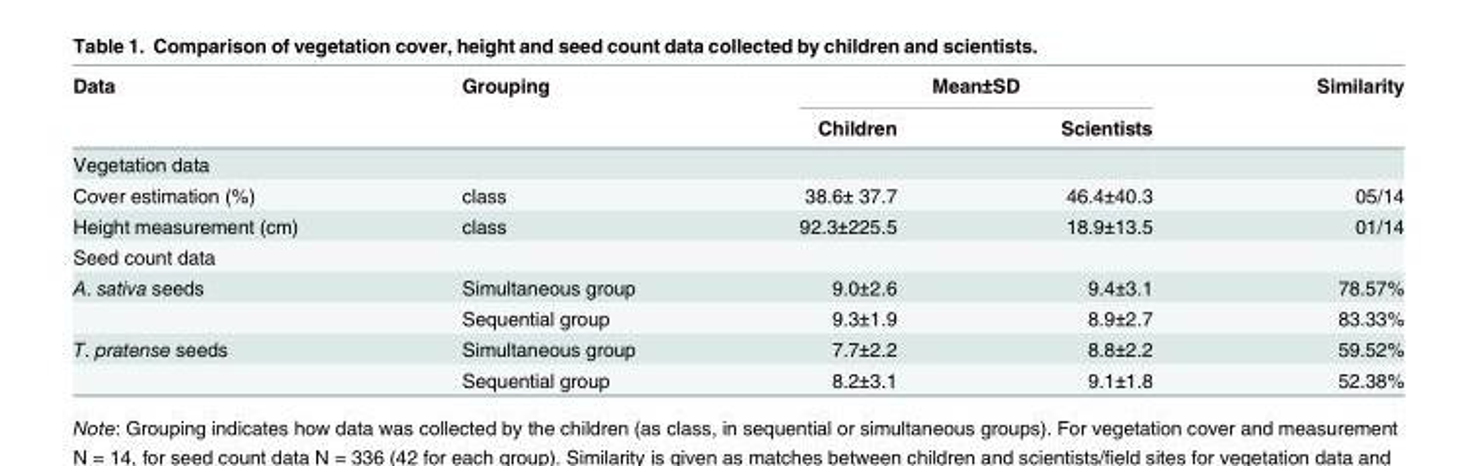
<table><thead><tr><td rowspan="2">Data</td><td rowspan="2">Grouping</td><td colspan="2">Mean±SD</td><td rowspan="2">Similarity</td></tr><tr><td>Children</td><td>Scientists</td></tr></thead><tbody><tr><td colspan="5">Vegetation data</td></tr><tr><td>Cover estimation (%)</td><td>class</td><td>38.6± 37.7</td><td>46.4±40.3</td><td>05/14</td></tr><tr><td>Height measurement (cm)</td><td>class</td><td>92.3±225.5</td><td>18.9±13.5</td><td>01/14</td></tr><tr><td colspan="5">Seed count data</td></tr><tr><td rowspan="2">A. sativa seeds</td><td>Simultaneous group</td><td>9.0±2.6</td><td>9.4±3.1</td><td>78.57%</td></tr><tr><td>Sequential group</td><td>9.3±1.9</td><td>8.9±2.7</td><td>83.33%</td></tr><tr><td rowspan="2">T. pratense seeds</td><td>Simultaneous group</td><td>7.7±2.2</td><td>8.8±2.2</td><td>59.52%</td></tr><tr><td>Sequential group</td><td>8.2±3.1</td><td>9.1±1.8</td><td>52.38%</td></tr></tbody></table>